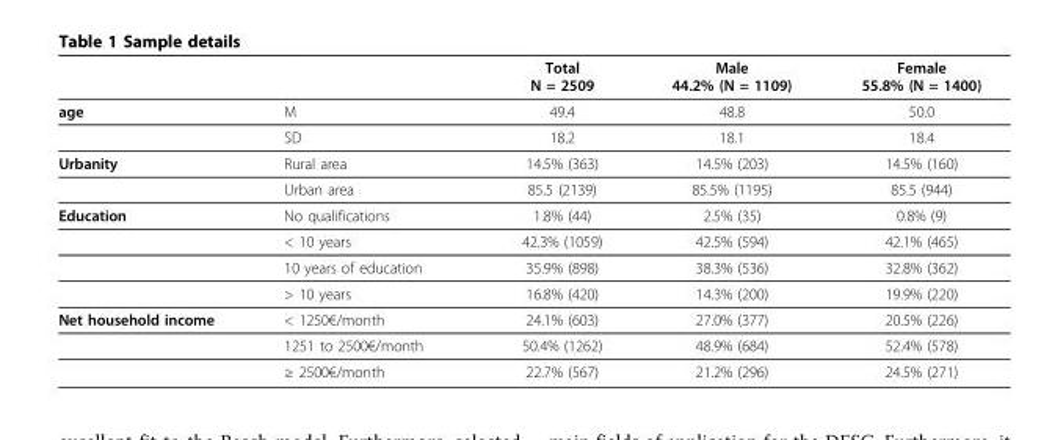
<table><thead><tr><td></td><td></td><td>Total N = 2509</td><td>Male 44.2% (N = 1109)</td><td>Female 55.8% (N = 1400)</td></tr></thead><tbody><tr><td rowspan="2">age</td><td>M</td><td>49.4</td><td>48.8</td><td>50.0</td></tr><tr><td>SD</td><td>18.2</td><td>18.1</td><td>18.4</td></tr><tr><td rowspan="2">Urbanity</td><td>Rural area</td><td>14.5% (363)</td><td>14.5% (203)</td><td>14.5% (160)</td></tr><tr><td>Urban area</td><td>85.5 (2139)</td><td>85.5% (1195)</td><td>85.5 (944)</td></tr><tr><td rowspan="4">Education</td><td>No qualifications</td><td>1.8% (44)</td><td>2.5% (35)</td><td>0.8% (9)</td></tr><tr><td>&lt; 10 years</td><td>42.3% (1059)</td><td>42.5% (594)</td><td>42.1% (465)</td></tr><tr><td>10 years of education</td><td>35.9% (898)</td><td>38.3% (536)</td><td>32.8% (362)</td></tr><tr><td>&gt; 10 years</td><td>16.8% (420)</td><td>14.3% (200)</td><td>19.9% (220)</td></tr><tr><td rowspan="3">Net household income</td><td>&lt; 1250€/month</td><td>24.1% (603)</td><td>27.0% (377)</td><td>20.5% (226)</td></tr><tr><td>1251 to 2500€/month</td><td>50.4% (1262)</td><td>48.9% (684)</td><td>52.4% (578)</td></tr><tr><td>≥ 2500€/month</td><td>22.7% (567)</td><td>21.2% (296)</td><td>24.5% (271)</td></tr></tbody></table>